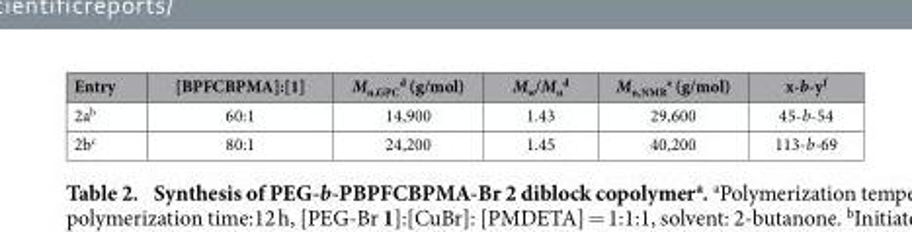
<table><thead><tr><td>Entry</td><td>[BPFCBPMA]:[1]</td><td>M<sub>n,GPC</sub> <sup>d</sup> (g/mol)</td><td>M<sub>w</sub>/M<sub>n</sub> <sup>d</sup></td><td>M<sub>n,NMR</sub> <sup>e</sup> (g/mol)</td><td>x-b-y<sup>f</sup></td></tr></thead><tbody><tr><td>2a<sup>b</sup></td><td>60:1</td><td>14,900</td><td>1.43</td><td>29,600</td><td>45-b-54</td></tr><tr><td>2b<sup>c</sup></td><td>80:1</td><td>24,200</td><td>1.45</td><td>40,200</td><td>113-b-69</td></tr></tbody></table>